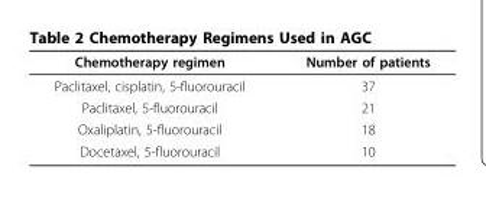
<table><thead><tr><td>Chemotherapy regimen</td><td>Number of patients</td></tr></thead><tbody><tr><td>Paclitaxel, cisplatin, 5-fluorouracil</td><td>37</td></tr><tr><td>Paclitaxel, 5-fluorouracil</td><td>21</td></tr><tr><td>Oxaliplatin, 5-fluorouracil</td><td>18</td></tr><tr><td>Docetaxel, 5-fluorouracil</td><td>10</td></tr></tbody></table>